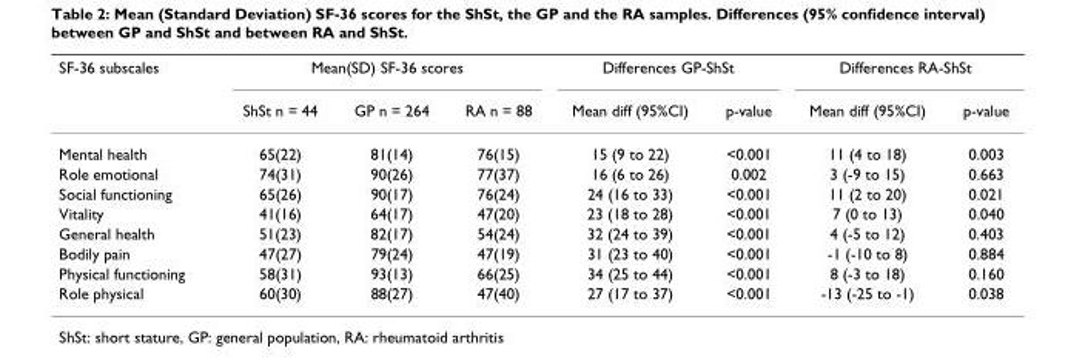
<table><thead><tr><td rowspan="2">SF-36 subscales</td><td colspan="3">Mean(SD) SF-36 scores</td><td colspan="2">Differences GP-ShSt</td><td colspan="2">Differences RA-ShSt</td></tr><tr><td>ShSt n = 44</td><td>GP n = 264</td><td>RA n = 88</td><td>Mean diff (95%CI)</td><td>p-value</td><td>Mean diff (95%CI)</td><td>p-value</td></tr></thead><tbody><tr><td>Mental health</td><td>65(22)</td><td>81(14)</td><td>76(15)</td><td>15 (9 to 22)</td><td>&lt;0.001</td><td>11 (4 to 18)</td><td>0.003</td></tr><tr><td>Role emotional</td><td>74(31)</td><td>90(26)</td><td>77(37)</td><td>16 (6 to 26)</td><td>0.002</td><td>3 (-9 to 15)</td><td>0.663</td></tr><tr><td>Social functioning</td><td>65(26)</td><td>90(17)</td><td>76(24)</td><td>24 (16 to 33)</td><td>&lt;0.001</td><td>11 (2 to 20)</td><td>0.021</td></tr><tr><td>Vitality</td><td>41(16)</td><td>64(17)</td><td>47(20)</td><td>23 (18 to 28)</td><td>&lt;0.001</td><td>7 (0 to 13)</td><td>0.040</td></tr><tr><td>General health</td><td>51(23)</td><td>82(17)</td><td>54(24)</td><td>32 (24 to 39)</td><td>&lt;0.001</td><td>4 (-5 to 12)</td><td>0.403</td></tr><tr><td>Bodily pain</td><td>47(27)</td><td>79(24)</td><td>47(19)</td><td>31 (23 to 40)</td><td>&lt;0.001</td><td>-1 (-10 to 8)</td><td>0.884</td></tr><tr><td>Physical functioning</td><td>58(31)</td><td>93(13)</td><td>66(25)</td><td>34 (25 to 44)</td><td>&lt;0.001</td><td>8 (-3 to 18)</td><td>0.160</td></tr><tr><td>Role physical</td><td>60(30)</td><td>88(27)</td><td>47(40)</td><td>27 (17 to 37)</td><td>&lt;0.001</td><td>-13 (-25 to -1)</td><td>0.038</td></tr></tbody></table>